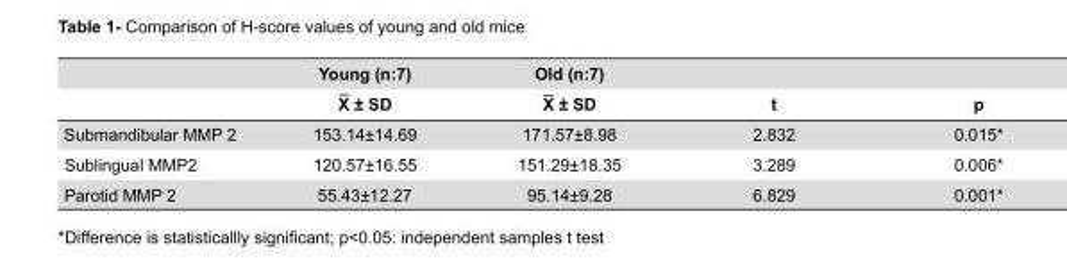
<table><thead><tr><td></td><td>Young (n:7)</td><td>Old (n:7)</td><td></td><td></td></tr></thead><tbody><tr><td></td><td>X ± SD</td><td>X ± SD</td><td>t</td><td>p</td></tr><tr><td>Submandibular MMP 2</td><td>153.14±14.69</td><td>171.57±8.98</td><td>2.832</td><td>0.015*</td></tr><tr><td>Sublingual MMP2</td><td>120.57±16.55</td><td>151.29±18.35</td><td>3.289</td><td>0.006*</td></tr><tr><td>Parotid MMP 2</td><td>55.43±12.27</td><td>95.14±9.28</td><td>6.829</td><td>0.001*</td></tr></tbody></table>